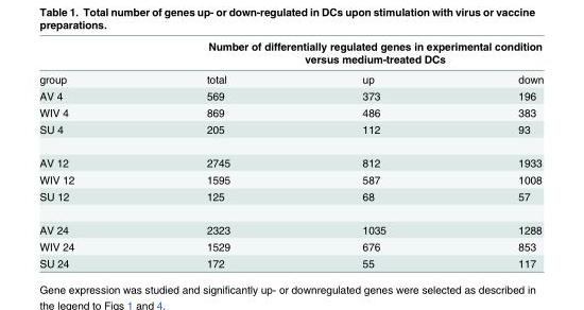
<table><thead><tr><td rowspan="2">group</td><td colspan="3">Number of differentially regulated genes in experimental condition versus medium-treated DCs</td></tr><tr><td>total</td><td>up</td><td>down</td></tr></thead><tbody><tr><td>AV 4</td><td>569</td><td>373</td><td>196</td></tr><tr><td>WIV 4</td><td>869</td><td>486</td><td>383</td></tr><tr><td>SU 4</td><td>205</td><td>112</td><td>93</td></tr><tr><td>AV 12</td><td>2745</td><td>812</td><td>1933</td></tr><tr><td>WIV 12</td><td>1595</td><td>587</td><td>1008</td></tr><tr><td>SU 12</td><td>125</td><td>68</td><td>57</td></tr><tr><td>AV 24</td><td>2323</td><td>1035</td><td>1288</td></tr><tr><td>WIV 24</td><td>1529</td><td>676</td><td>853</td></tr><tr><td>SU 24</td><td>172</td><td>55</td><td>117</td></tr></tbody></table>